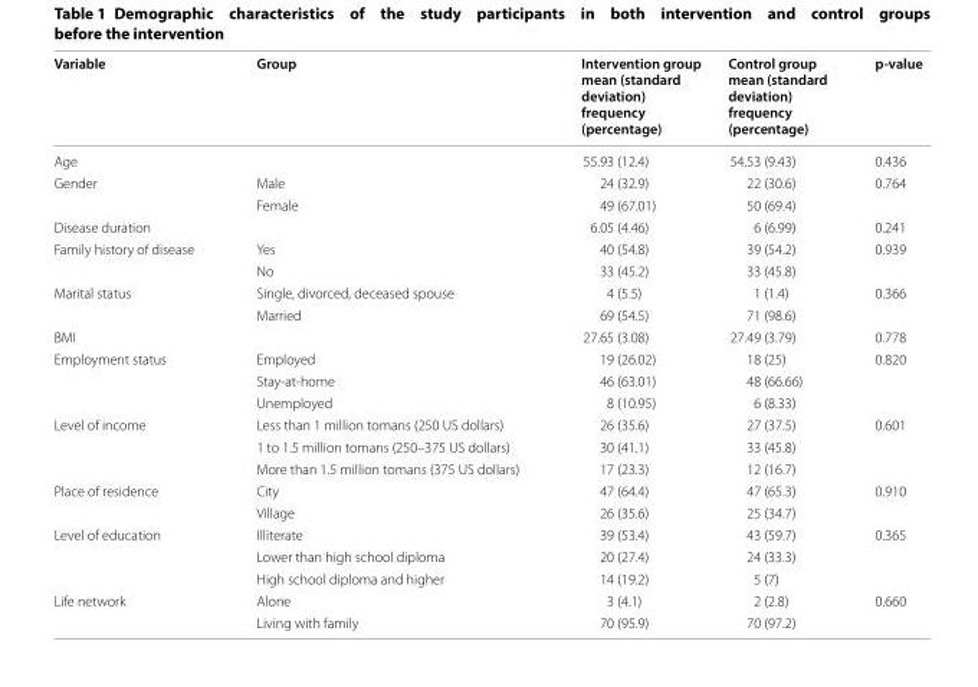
<table><thead><tr><td>Variable</td><td>Group</td><td>Intervention group mean (standard deviation) frequency (percentage)</td><td>Control group mean (standard deviation) frequency (percentage)</td><td>p-value</td></tr></thead><tbody><tr><td colspan="2">Age</td><td>55.93 (12.4)</td><td>54.53 (9.43)</td><td>0.436</td></tr><tr><td rowspan="2">Gender</td><td>Male</td><td>24 (32.9)</td><td>22 (30.6)</td><td rowspan="2">0.764</td></tr><tr><td>Female</td><td>49 (67.01)</td><td>50 (69.4)</td></tr><tr><td colspan="2">Disease duration</td><td>6.05 (4.46)</td><td>6 (6.99)</td><td>0.241</td></tr><tr><td rowspan="2">Family history of disease</td><td>Yes</td><td>40 (54.8)</td><td>39 (54.2)</td><td rowspan="2">0.939</td></tr><tr><td>No</td><td>33 (45.2)</td><td>33 (45.8)</td></tr><tr><td rowspan="2">Marital status</td><td>Single, divorced, deceased spouse</td><td>4 (5.5)</td><td>1 (1.4)</td><td rowspan="2">0.366</td></tr><tr><td>Married</td><td>69 (54.5)</td><td>71 (98.6)</td></tr><tr><td colspan="2">BMI</td><td>27.65 (3.08)</td><td>27.49 (3.79)</td><td>0.778</td></tr><tr><td rowspan="3">Employment status</td><td>Employed</td><td>19 (26.02)</td><td>18 (25)</td><td rowspan="3">0.820</td></tr><tr><td>Stay-at-home</td><td>46 (63.01)</td><td>48 (66.66)</td></tr><tr><td>Unemployed</td><td>8 (10.95)</td><td>6 (8.33)</td></tr><tr><td rowspan="3">Level of income</td><td>Less than 1 million tomans (250 US dollars)</td><td>26 (35.6)</td><td>27 (37.5)</td><td rowspan="3">0.601</td></tr><tr><td>1 to 1.5 million tomans (250–375 US dollars)</td><td>30 (41.1)</td><td>33 (45.8)</td></tr><tr><td>More than 1.5 million tomans (375 US dollars)</td><td>17 (23.3)</td><td>12 (16.7)</td></tr><tr><td rowspan="2">Place of residence</td><td>City</td><td>47 (64.4)</td><td>47 (65.3)</td><td rowspan="2">0.910</td></tr><tr><td>Village</td><td>26 (35.6)</td><td>25 (34.7)</td></tr><tr><td rowspan="3">Level of education</td><td>Illiterate</td><td>39 (53.4)</td><td>43 (59.7)</td><td rowspan="3">0.365</td></tr><tr><td>Lower than high school diploma</td><td>20 (27.4)</td><td>24 (33.3)</td></tr><tr><td>High school diploma and higher</td><td>14 (19.2)</td><td>5 (7)</td></tr><tr><td rowspan="2">Life network</td><td>Alone</td><td>3 (4.1)</td><td>2 (2.8)</td><td rowspan="2">0.660</td></tr><tr><td>Living with family</td><td>70 (95.9)</td><td>70 (97.2)</td></tr></tbody></table>